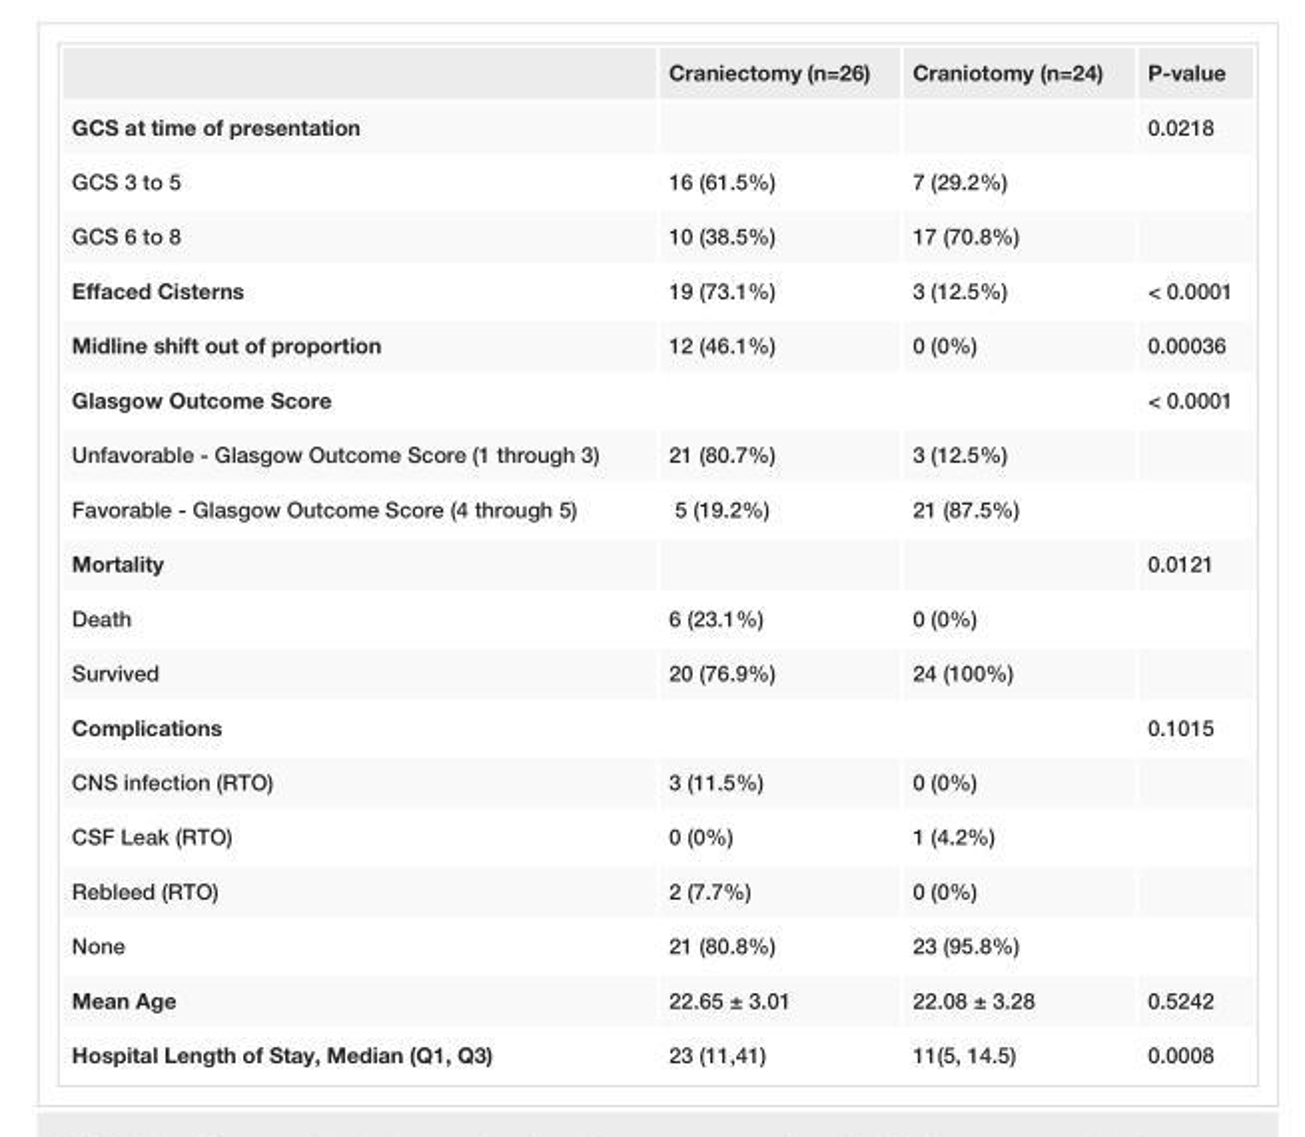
<table><thead><tr><td></td><td>Craniectomy (n=26)</td><td>Craniotomy (n=24)</td><td>P-value</td></tr></thead><tbody><tr><td>GCS at time of presentation</td><td></td><td></td><td>0.0218</td></tr><tr><td>GCS 3 to 5</td><td>16 (61.5%)</td><td>7 (29.2%)</td><td></td></tr><tr><td>GCS 6 to 8</td><td>10 (38.5%)</td><td>17 (70.8%)</td><td></td></tr><tr><td>Effaced Cisterns</td><td>19 (73.1%)</td><td>3 (12.5%)</td><td>&lt; 0.0001</td></tr><tr><td>Midline shift out of proportion</td><td>12 (46.1%)</td><td>0 (0%)</td><td>0.00036</td></tr><tr><td>Glasgow Outcome Score</td><td></td><td></td><td>&lt; 0.0001</td></tr><tr><td>Unfavorable - Glasgow Outcome Score (1 through 3)</td><td>21 (80.7%)</td><td>3 (12.5%)</td><td></td></tr><tr><td>Favorable - Glasgow Outcome Score (4 through 5)</td><td>5 (19.2%)</td><td>21 (87.5%)</td><td></td></tr><tr><td>Mortality</td><td></td><td></td><td>0.0121</td></tr><tr><td>Death</td><td>6 (23.1%)</td><td>0 (0%)</td><td></td></tr><tr><td>Survived</td><td>20 (76.9%)</td><td>24 (100%)</td><td></td></tr><tr><td>Complications</td><td></td><td></td><td>0.1015</td></tr><tr><td>CNS infection (RTO)</td><td>3 (11.5%)</td><td>0 (0%)</td><td></td></tr><tr><td>CSF Leak (RTO)</td><td>0 (0%)</td><td>1 (4.2%)</td><td></td></tr><tr><td>Rebleed (RTO)</td><td>2 (7.7%)</td><td>0 (0%)</td><td></td></tr><tr><td>None</td><td>21 (80.8%)</td><td>23 (95.8%)</td><td></td></tr><tr><td>Mean Age</td><td>22.65 ± 3.01</td><td>22.08 ± 3.28</td><td>0.5242</td></tr><tr><td>Hospital Length of Stay, Median (Q1, Q3)</td><td>23 (11,41)</td><td>11(5, 14.5)</td><td>0.0008</td></tr></tbody></table>